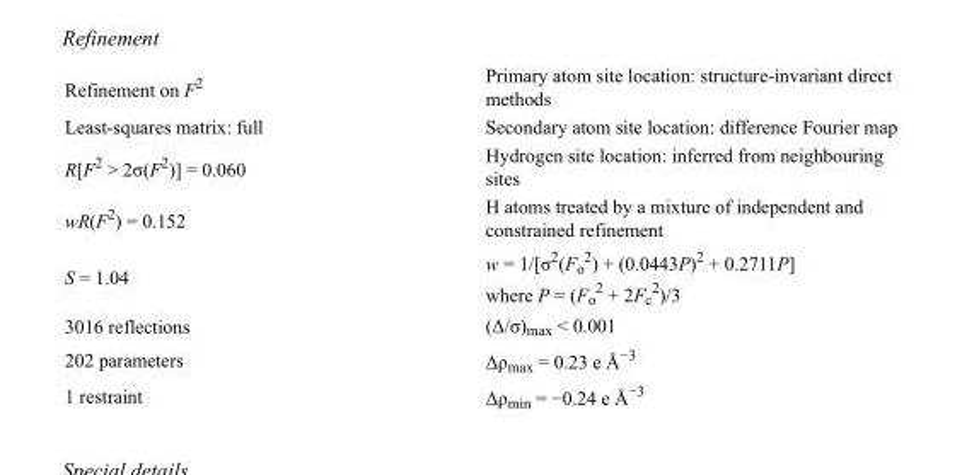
<table><tbody><tr><td>Refinement on F<sup>2</sup></td><td>Primary atom site location: structure-invariant direct methods</td></tr><tr><td>Least-squares matrix: full</td><td>Secondary atom site location: difference Fourier map</td></tr><tr><td>R[F<sup>2</sup> &gt; 2σ(F<sup>2</sup>)] = 0.060</td><td>Hydrogen site location: inferred from neighbouring sites</td></tr><tr><td>wR(F<sup>2</sup>) = 0.152</td><td>H atoms treated by a mixture of independent and constrained refinement</td></tr><tr><td>S = 1.04</td><td>w = 1/[σ<sup>2</sup>(F<sub>o</sub> <sup>2</sup>) + (0.0443P)<sup>2</sup> + 0.2711P] where P = (F<sub>o</sub> <sup>2</sup> + 2F<sub>c</sub> <sup>2</sup>)/3</td></tr><tr><td>3016 reflections</td><td>(Δ/σ)<sub>max</sub> &lt; 0.001</td></tr><tr><td>202 parameters</td><td>Δρ<sub>max</sub> = 0.23 e Å<sup>−3</sup></td></tr><tr><td>1 restraint</td><td>Δρ<sub>min</sub> = −0.24 e Å<sup>−3</sup></td></tr></tbody></table>